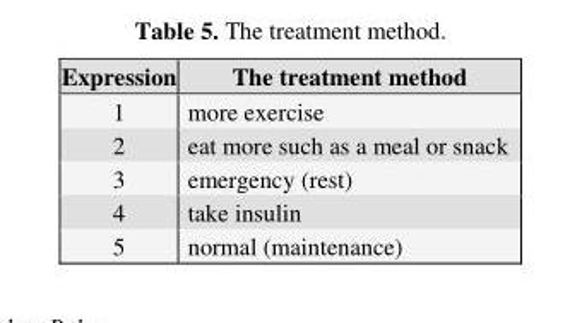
<table><thead><tr><td>Expression</td><td>The treatment method</td></tr></thead><tbody><tr><td>1</td><td>more exercise</td></tr><tr><td>2</td><td>eat more such as a meal or snack</td></tr><tr><td>3</td><td>emergency (rest)</td></tr><tr><td>4</td><td>take insulin</td></tr><tr><td>5</td><td>normal (maintenance)</td></tr></tbody></table>